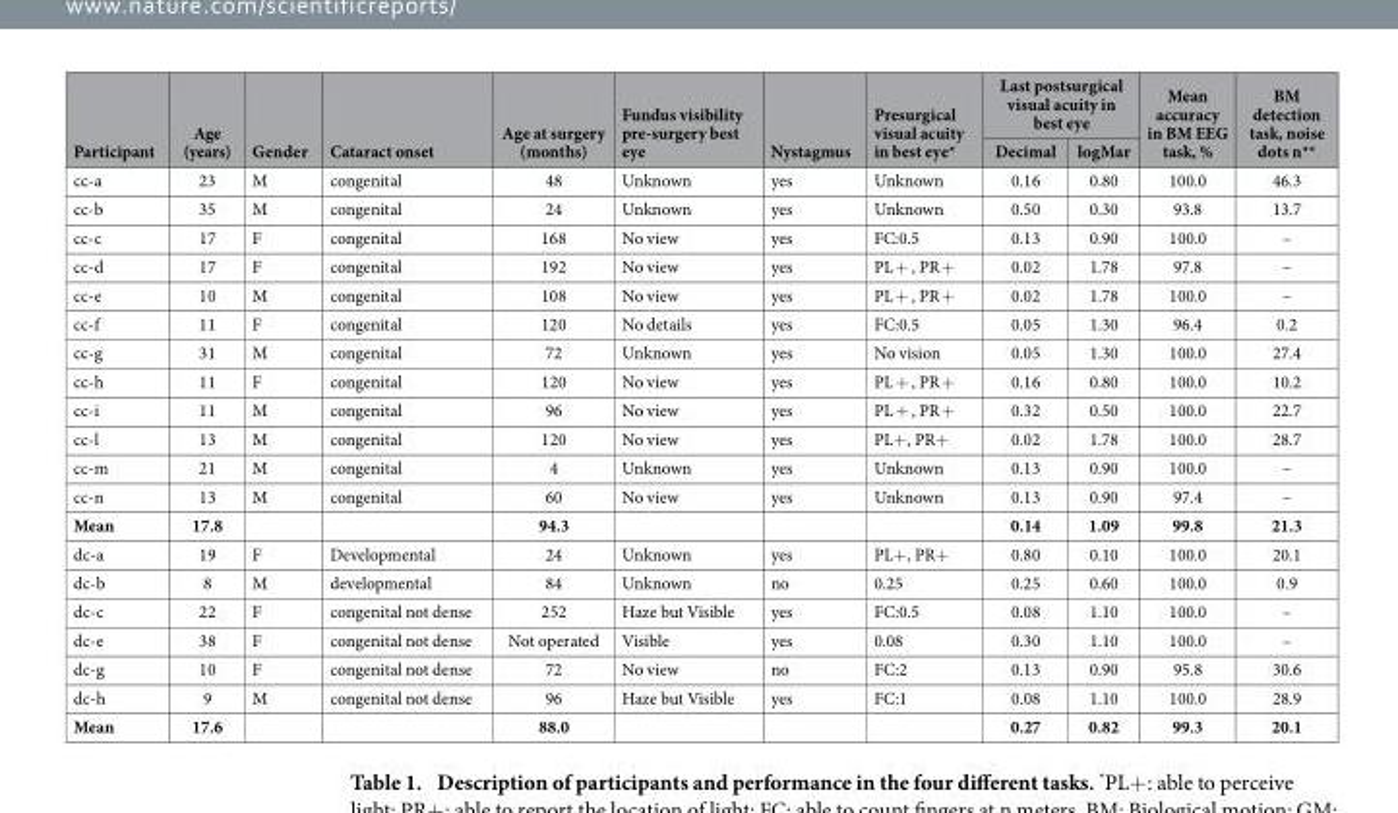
<table><thead><tr><td rowspan="2">Participant</td><td rowspan="2">Age (years)</td><td rowspan="2">Gender</td><td rowspan="2">Cataract onset</td><td rowspan="2">Age at surgery (months)</td><td rowspan="2">Fundus visibility pre-surgery best eye</td><td rowspan="2">Nystagmus</td><td rowspan="2">Presurgical visual acuity in best eye*</td><td colspan="2">Last postsurgical visual acuity in best eye</td><td rowspan="2">Mean accuracy in BM EEG task, %</td><td rowspan="2">BM detection task, noise dots n**</td></tr><tr><td>Decimal</td><td>logMar</td></tr></thead><tbody><tr><td>cc-a</td><td>23</td><td>M</td><td>congenital</td><td>48</td><td>Unknown</td><td>yes</td><td>Unknown</td><td>0.16</td><td>0.80</td><td>100.0</td><td>46.3</td></tr><tr><td>cc-b</td><td>35</td><td>M</td><td>congenital</td><td>24</td><td>Unknown</td><td>yes</td><td>Unknown</td><td>0.50</td><td>0.30</td><td>93.8</td><td>13.7</td></tr><tr><td>cc-c</td><td>17</td><td>F</td><td>congenital</td><td>168</td><td>No view</td><td>yes</td><td>FC:0.5</td><td>0.13</td><td>0.90</td><td>100.0</td><td>–</td></tr><tr><td>cc-d</td><td>17</td><td>F</td><td>congenital</td><td>192</td><td>No view</td><td>yes</td><td>PL + , PR +</td><td>0.02</td><td>1.78</td><td>97.8</td><td>–</td></tr><tr><td>cc-e</td><td>10</td><td>M</td><td>congenital</td><td>108</td><td>No view</td><td>yes</td><td>PL + , PR +</td><td>0.02</td><td>1.78</td><td>100.0</td><td>–</td></tr><tr><td>cc-f</td><td>11</td><td>F</td><td>congenital</td><td>120</td><td>No details</td><td>yes</td><td>FC:0.5</td><td>0.05</td><td>1.30</td><td>96.4</td><td>0.2</td></tr><tr><td>cc-g</td><td>31</td><td>M</td><td>congenital</td><td>72</td><td>Unknown</td><td>yes</td><td>No vision</td><td>0.05</td><td>1.30</td><td>100.0</td><td>27.4</td></tr><tr><td>cc-h</td><td>11</td><td>F</td><td>congenital</td><td>120</td><td>No view</td><td>yes</td><td>PL + , PR +</td><td>0.16</td><td>0.80</td><td>100.0</td><td>10.2</td></tr><tr><td>cc-i</td><td>11</td><td>M</td><td>congenital</td><td>96</td><td>No view</td><td>yes</td><td>PL + , PR +</td><td>0.32</td><td>0.50</td><td>100.0</td><td>22.7</td></tr><tr><td>cc-l</td><td>13</td><td>M</td><td>congenital</td><td>120</td><td>No view</td><td>yes</td><td>PL+ , PR+</td><td>0.02</td><td>1.78</td><td>100.0</td><td>28.7</td></tr><tr><td>cc-m</td><td>21</td><td>M</td><td>congenital</td><td>4</td><td>Unknown</td><td>yes</td><td>Unknown</td><td>0.13</td><td>0.90</td><td>100.0</td><td>–</td></tr><tr><td>cc-n</td><td>13</td><td>M</td><td>congenital</td><td>60</td><td>No view</td><td>yes</td><td>Unknown</td><td>0.13</td><td>0.90</td><td>97.4</td><td>–</td></tr><tr><td>Mean</td><td>17.8</td><td></td><td></td><td>94.3</td><td></td><td></td><td></td><td>0.14</td><td>1.09</td><td>99.8</td><td>21.3</td></tr><tr><td>dc-a</td><td>19</td><td>F</td><td>Developmental</td><td>24</td><td>Unknown</td><td>yes</td><td>PL+ , PR+</td><td>0.80</td><td>0.10</td><td>100.0</td><td>20.1</td></tr><tr><td>dc-b</td><td>8</td><td>M</td><td>developmental</td><td>84</td><td>Unknown</td><td>no</td><td>0.25</td><td>0.25</td><td>0.60</td><td>100.0</td><td>0.9</td></tr><tr><td>dc-c</td><td>22</td><td>F</td><td>congenital not dense</td><td>252</td><td>Haze but Visible</td><td>yes</td><td>FC:0.5</td><td>0.08</td><td>1.10</td><td>100.0</td><td>–</td></tr><tr><td>dc-e</td><td>38</td><td>F</td><td>congenital not dense</td><td>Not operated</td><td>Visible</td><td>yes</td><td>0.08</td><td>0.30</td><td>1.10</td><td>100.0</td><td>–</td></tr><tr><td>dc-g</td><td>10</td><td>F</td><td>congenital not dense</td><td>72</td><td>No view</td><td>no</td><td>FC:2</td><td>0.13</td><td>0.90</td><td>95.8</td><td>30.6</td></tr><tr><td>dc-h</td><td>9</td><td>M</td><td>congenital not dense</td><td>96</td><td>Haze but Visible</td><td>yes</td><td>FC:1</td><td>0.08</td><td>1.10</td><td>100.0</td><td>28.9</td></tr><tr><td>Mean</td><td>17.6</td><td></td><td></td><td>88.0</td><td></td><td></td><td></td><td>0.27</td><td>0.82</td><td>99.3</td><td>20.1</td></tr></tbody></table>